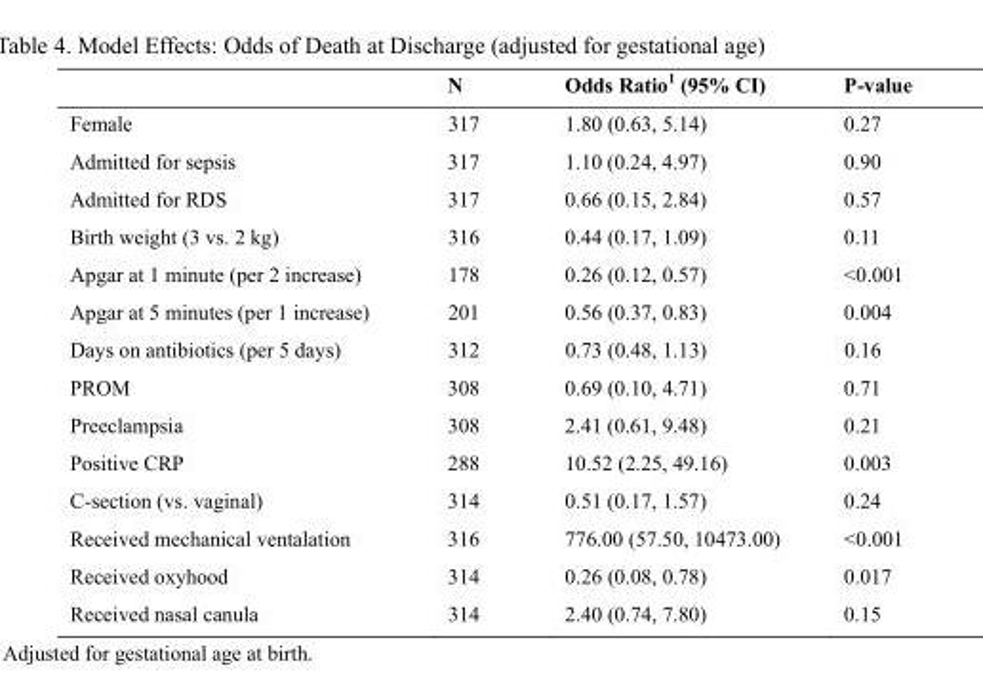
<table><thead><tr><td></td><td>N</td><td>Odds Ratio<sup>1</sup> (95% CI)</td><td>P-value</td></tr></thead><tbody><tr><td>Female</td><td>317</td><td>1.80 (0.63, 5.14)</td><td>0.27</td></tr><tr><td>Admitted for sepsis</td><td>317</td><td>1.10 (0.24, 4.97)</td><td>0.90</td></tr><tr><td>Admitted for RDS</td><td>317</td><td>0.66 (0.15, 2.84)</td><td>0.57</td></tr><tr><td>Birth weight (3 vs. 2 kg)</td><td>316</td><td>0.44 (0.17, 1.09)</td><td>0.11</td></tr><tr><td>Apgar at 1 minute (per 2 increase)</td><td>178</td><td>0.26 (0.12, 0.57)</td><td>&lt;0.001</td></tr><tr><td>Apgar at 5 minutes (per 1 increase)</td><td>201</td><td>0.56 (0.37, 0.83)</td><td>0.004</td></tr><tr><td>Days on antibiotics (per 5 days)</td><td>312</td><td>0.73 (0.48, 1.13)</td><td>0.16</td></tr><tr><td>PROM</td><td>308</td><td>0.69 (0.10, 4.71)</td><td>0.71</td></tr><tr><td>Preeclampsia</td><td>308</td><td>2.41 (0.61, 9.48)</td><td>0.21</td></tr><tr><td>Positive CRP</td><td>288</td><td>10.52 (2.25, 49.16)</td><td>0.003</td></tr><tr><td>C-section (vs. vaginal)</td><td>314</td><td>0.51 (0.17, 1.57)</td><td>0.24</td></tr><tr><td>Received mechanical ventalation</td><td>316</td><td>776.00 (57.50, 10473.00)</td><td>&lt;0.001</td></tr><tr><td>Received oxyhood</td><td>314</td><td>0.26 (0.08, 0.78)</td><td>0.017</td></tr><tr><td>Received nasal canula</td><td>314</td><td>2.40 (0.74, 7.80)</td><td>0.15</td></tr></tbody></table>